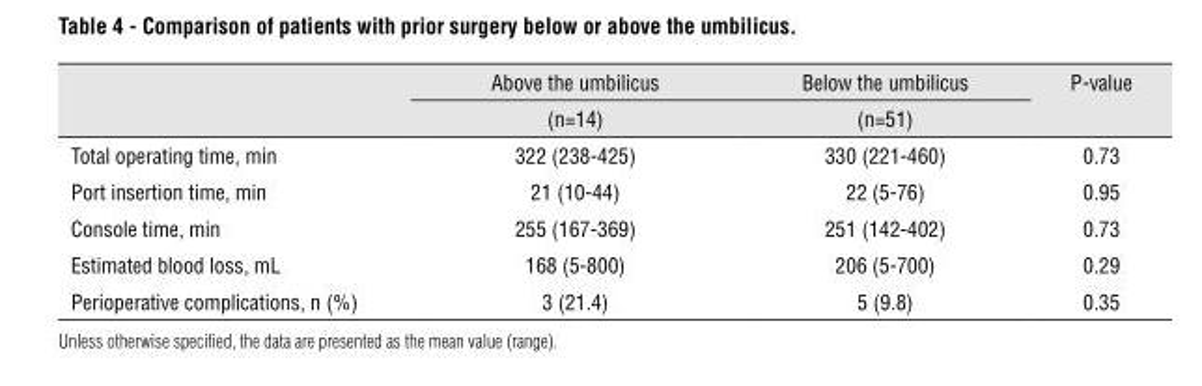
<table><thead><tr><td rowspan="2"></td><td rowspan="2">Above the umbilicus (n=14)</td><td rowspan="2">Below the umbilicus (n=51)</td><td rowspan="2">P-value</td></tr><tr></tr></thead><tbody><tr><td>Total operating time, min</td><td>322 (238-425)</td><td>330 (221-460)</td><td>0.73</td></tr><tr><td>Port insertion time, min</td><td>21 (10-44)</td><td>22 (5-76)</td><td>0.95</td></tr><tr><td>Console time, min</td><td>255 (167-369)</td><td>251 (142-402)</td><td>0.73</td></tr><tr><td>Estimated blood loss, mL</td><td>168 (5-800)</td><td>206 (5-700)</td><td>0.29</td></tr><tr><td>Perioperative complications, n (%)</td><td>3 (21.4)</td><td>5 (9.8)</td><td>0.35</td></tr></tbody></table>